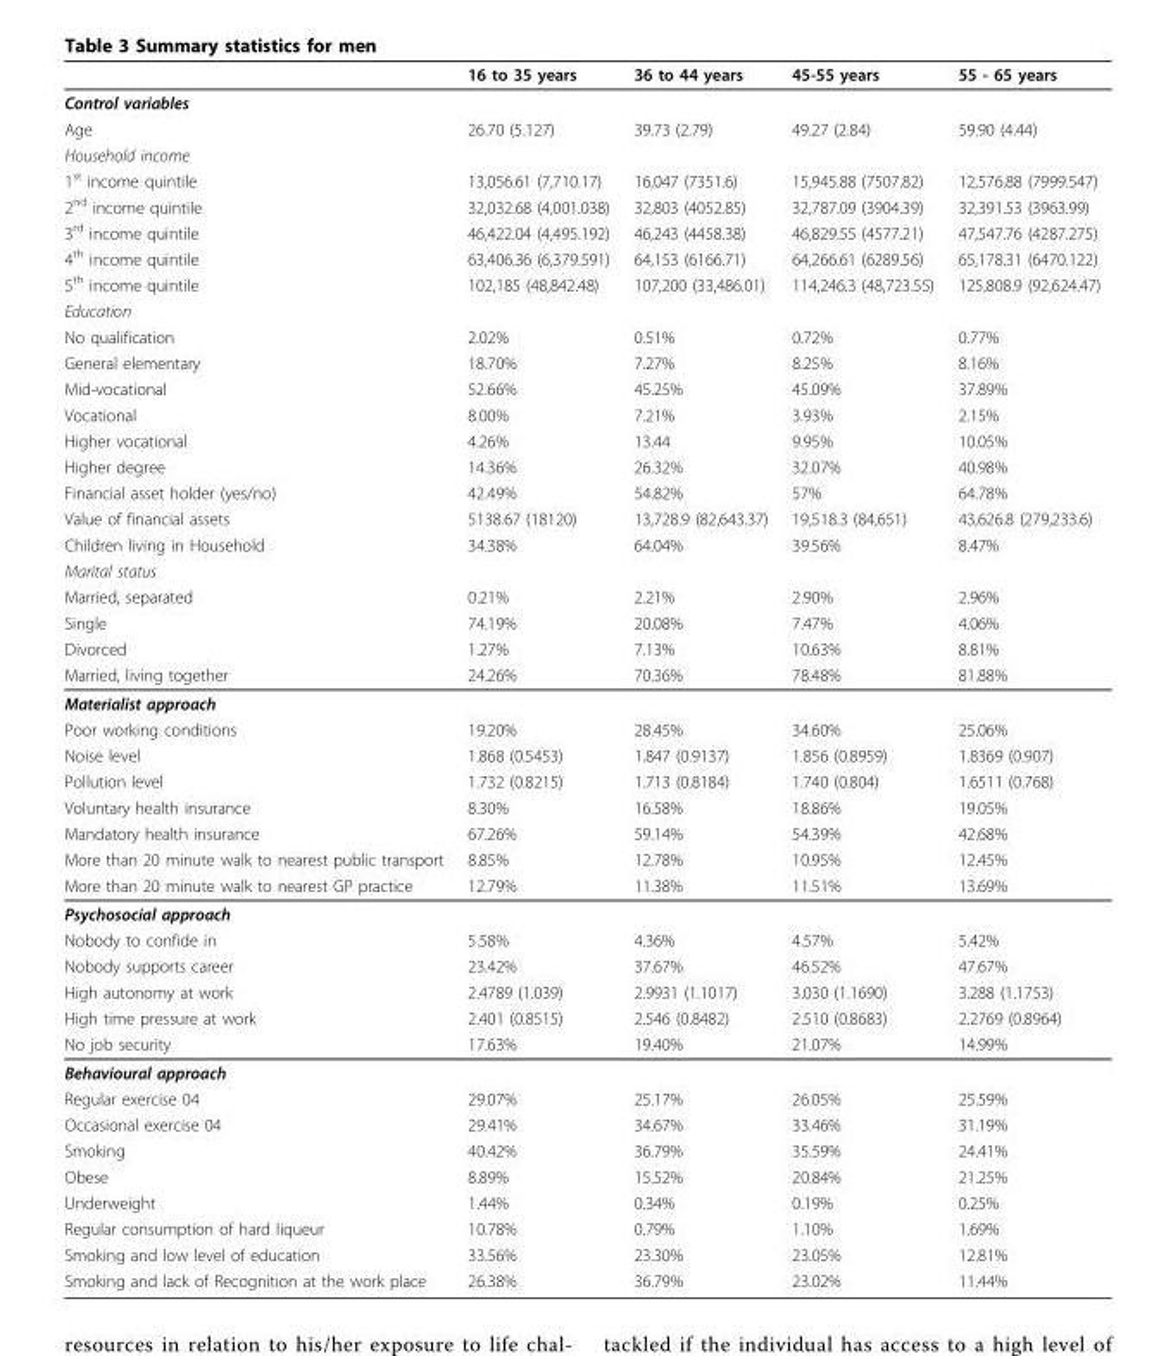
<table><thead><tr><td></td><td>16 to 35 years</td><td>36 to 44 years</td><td>45-55 years</td><td>55 - 65 years</td></tr></thead><tbody><tr><td colspan="5">Control variables</td></tr><tr><td>Age</td><td>26.70 (5.127)</td><td>39.73 (2.79)</td><td>49.27 (2.84)</td><td>59.90 (4.44)</td></tr><tr><td colspan="5">Household income</td></tr><tr><td>1<sup>st</sup> income quintile</td><td>13,056.61 (7,710.17)</td><td>16,047 (7351.6)</td><td>15,945.88 (7507.82)</td><td>12,576.88 (7999.547)</td></tr><tr><td>2<sup>nd</sup> income quintile</td><td>32,032.68 (4,001.038)</td><td>32,803 (4052.85)</td><td>32,787.09 (3904.39)</td><td>32,391.53 (3963.99)</td></tr><tr><td>3<sup>rd</sup> income quintile</td><td>46,422.04 (4,495.192)</td><td>46,243 (4458.38)</td><td>46,829.55 (4577.21)</td><td>47,547.76 (4287.275)</td></tr><tr><td>4<sup>th</sup> income quintile</td><td>63,406.36 (6,379.591)</td><td>64,153 (6166.71)</td><td>64,266.61 (6289.56)</td><td>65,178.31 (6470.122)</td></tr><tr><td>5<sup>th</sup> income quintile</td><td>102,185 (48,842.48)</td><td>107,200 (33,486.01)</td><td>114,246.3 (48,723.55)</td><td>125,808.9 (92,624.47)</td></tr><tr><td colspan="5">Education</td></tr><tr><td>No qualification</td><td>2.02%</td><td>0.51%</td><td>0.72%</td><td>0.77%</td></tr><tr><td>General elementary</td><td>18.70%</td><td>7.27%</td><td>8.25%</td><td>8.16%</td></tr><tr><td>Mid-vocational</td><td>52.66%</td><td>45.25%</td><td>45.09%</td><td>37.89%</td></tr><tr><td>Vocational</td><td>8.00%</td><td>7.21%</td><td>3.93%</td><td>2.15%</td></tr><tr><td>Higher vocational</td><td>4.26%</td><td>13.44</td><td>9.95%</td><td>10.05%</td></tr><tr><td>Higher degree</td><td>14.36%</td><td>26.32%</td><td>32.07%</td><td>40.98%</td></tr><tr><td>Financial asset holder (yes/no)</td><td>42.49%</td><td>54.82%</td><td>57%</td><td>64.78%</td></tr><tr><td>Value of financial assets</td><td>5138.67 (18120)</td><td>13,728.9 (82,643.37)</td><td>19,518.3 (84,651)</td><td>43,626.8 (279,233.6)</td></tr><tr><td>Children living in Household</td><td>34.38%</td><td>64.04%</td><td>39.56%</td><td>8.47%</td></tr><tr><td colspan="5">Marital status</td></tr><tr><td>Married, separated</td><td>0.21%</td><td>2.21%</td><td>2.90%</td><td>2.96%</td></tr><tr><td>Single</td><td>74.19%</td><td>20.08%</td><td>7.47%</td><td>4.06%</td></tr><tr><td>Divorced</td><td>1.27%</td><td>7.13%</td><td>10.63%</td><td>8.81%</td></tr><tr><td>Married, living together</td><td>24.26%</td><td>70.36%</td><td>78.48%</td><td>81.88%</td></tr><tr><td colspan="5">Materialist approach</td></tr><tr><td>Poor working conditions</td><td>19.20%</td><td>28.45%</td><td>34.60%</td><td>25.06%</td></tr><tr><td>Noise level</td><td>1.868 (0.5453)</td><td>1.847 (0.9137)</td><td>1.856 (0.8959)</td><td>1.8369 (0.907)</td></tr><tr><td>Pollution level</td><td>1.732 (0.8215)</td><td>1.713 (0.8184)</td><td>1.740 (0.804)</td><td>1.6511 (0.768)</td></tr><tr><td>Voluntary health insurance</td><td>8.30%</td><td>16.58%</td><td>18.86%</td><td>19.05%</td></tr><tr><td>Mandatory health insurance</td><td>67.26%</td><td>59.14%</td><td>54.39%</td><td>42.68%</td></tr><tr><td>More than 20 minute walk to nearest public transport</td><td>8.85%</td><td>12.78%</td><td>10.95%</td><td>12.45%</td></tr><tr><td>More than 20 minute walk to nearest GP practice</td><td>12.79%</td><td>11.38%</td><td>11.51%</td><td>13.69%</td></tr><tr><td colspan="5">Psychosocial approach</td></tr><tr><td>Nobody to confide in</td><td>5.58%</td><td>4.36%</td><td>4.57%</td><td>5.42%</td></tr><tr><td>Nobody supports career</td><td>23.42%</td><td>37.67%</td><td>46.52%</td><td>47.67%</td></tr><tr><td>High autonomy at work</td><td>2.4789 (1.039)</td><td>2.9931 (1.1017)</td><td>3.030 (1.1690)</td><td>3.288 (1.1753)</td></tr><tr><td>High time pressure at work</td><td>2.401 (0.8515)</td><td>2.546 (0.8482)</td><td>2.510 (0.8683)</td><td>2.2769 (0.8964)</td></tr><tr><td>No job security</td><td>17.63%</td><td>19.40%</td><td>21.07%</td><td>14.99%</td></tr><tr><td colspan="5">Behavioural approach</td></tr><tr><td>Regular exercise 04</td><td>29.07%</td><td>25.17%</td><td>26.05%</td><td>25.59%</td></tr><tr><td>Occasional exercise 04</td><td>29.41%</td><td>34.67%</td><td>33.46%</td><td>31.19%</td></tr><tr><td>Smoking</td><td>40.42%</td><td>36.79%</td><td>35.59%</td><td>24.41%</td></tr><tr><td>Obese</td><td>8.89%</td><td>15.52%</td><td>20.84%</td><td>21.25%</td></tr><tr><td>Underweight</td><td>1.44%</td><td>0.34%</td><td>0.19%</td><td>0.25%</td></tr><tr><td>Regular consumption of hard liqueur</td><td>10.78%</td><td>0.79%</td><td>1.10%</td><td>1.69%</td></tr><tr><td>Smoking and low level of education</td><td>33.56%</td><td>23.30%</td><td>23.05%</td><td>12.81%</td></tr><tr><td>Smoking and lack of Recognition at the work place</td><td>26.38%</td><td>36.79%</td><td>23.02%</td><td>11.44%</td></tr></tbody></table>